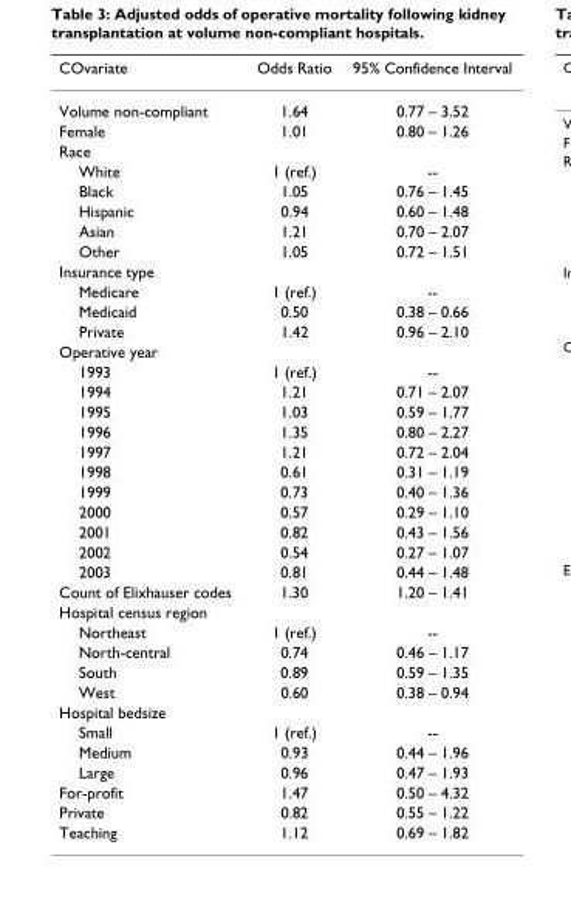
<table><thead><tr><td>COvariate</td><td>Odds Ratio</td><td>95% Confidence Interval</td></tr></thead><tbody><tr><td>Volume non-compliant</td><td>1.64</td><td>0.77 – 3.52</td></tr><tr><td>Female</td><td>1.01</td><td>0.80 – 1.26</td></tr><tr><td colspan="3">Race</td></tr><tr><td>White</td><td>1 (ref.)</td><td>--</td></tr><tr><td>Black</td><td>1.05</td><td>0.76 – 1.45</td></tr><tr><td>Hispanic</td><td>0.94</td><td>0.60 – 1.48</td></tr><tr><td>Asian</td><td>1.21</td><td>0.70 – 2.07</td></tr><tr><td>Other</td><td>1.05</td><td>0.72 – 1.51</td></tr><tr><td colspan="3">Insurance type</td></tr><tr><td>Medicare</td><td>1 (ref.)</td><td>--</td></tr><tr><td>Medicaid</td><td>0.50</td><td>0.38 – 0.66</td></tr><tr><td>Private</td><td>1.42</td><td>0.96 – 2.10</td></tr><tr><td colspan="3">Operative year</td></tr><tr><td>1993</td><td>1 (ref.)</td><td>--</td></tr><tr><td>1994</td><td>1.21</td><td>0.71 – 2.07</td></tr><tr><td>1995</td><td>1.03</td><td>0.59 – 1.77</td></tr><tr><td>1996</td><td>1.35</td><td>0.80 – 2.27</td></tr><tr><td>1997</td><td>1.21</td><td>0.72 – 2.04</td></tr><tr><td>1998</td><td>0.61</td><td>0.31 – 1.19</td></tr><tr><td>1999</td><td>0.73</td><td>0.40 – 1.36</td></tr><tr><td>2000</td><td>0.57</td><td>0.29 – 1.10</td></tr><tr><td>2001</td><td>0.82</td><td>0.43 – 1.56</td></tr><tr><td>2002</td><td>0.54</td><td>0.27 – 1.07</td></tr><tr><td>2003</td><td>0.81</td><td>0.44 – 1.48</td></tr><tr><td>Count of Elixhauser codes</td><td>1.30</td><td>1.20 – 1.41</td></tr><tr><td colspan="3">Hospital census region</td></tr><tr><td>Northeast</td><td>1 (ref.)</td><td>--</td></tr><tr><td>North-central</td><td>0.74</td><td>0.46 – 1.17</td></tr><tr><td>South</td><td>0.89</td><td>0.59 – 1.35</td></tr><tr><td>West</td><td>0.60</td><td>0.38 – 0.94</td></tr><tr><td colspan="3">Hospital bedsize</td></tr><tr><td>Small</td><td>1 (ref.)</td><td>--</td></tr><tr><td>Medium</td><td>0.93</td><td>0.44 – 1.96</td></tr><tr><td>Large</td><td>0.96</td><td>0.47 – 1.93</td></tr><tr><td>For-profit</td><td>1.47</td><td>0.50 – 4.32</td></tr><tr><td>Private</td><td>0.82</td><td>0.55 – 1.22</td></tr><tr><td>Teaching</td><td>1.12</td><td>0.69 – 1.82</td></tr></tbody></table>